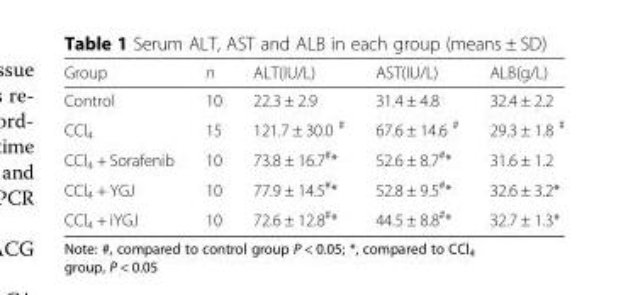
<table><thead><tr><td>Group</td><td>n</td><td>ALT(IU/L)</td><td>AST(IU/L)</td><td>ALB(g/L)</td></tr></thead><tbody><tr><td>Control</td><td>10</td><td>22.3 ± 2.9</td><td>31.4 ± 4.8</td><td>32.4 ± 2.2</td></tr><tr><td>CCl<sub>4</sub></td><td>15</td><td>121.7 ± 30.0 <sup>#</sup></td><td>67.6 ± 14.6 <sup>#</sup></td><td>29.3 ± 1.8 <sup>#</sup></td></tr><tr><td>CCl<sub>4</sub> + Sorafenib</td><td>10</td><td>73.8 ± 16.7<sup>#</sup>*</td><td>52.6 ± 8.7<sup>#</sup>*</td><td>31.6 ± 1.2</td></tr><tr><td>CCl<sub>4</sub> + YGJ</td><td>10</td><td>77.9 ± 14.5<sup>#</sup>*</td><td>52.8 ± 9.5<sup>#</sup>*</td><td>32.6 ± 3.2*</td></tr><tr><td>CCl<sub>4</sub> + iYGJ</td><td>10</td><td>72.6 ± 12.8<sup>#</sup>*</td><td>44.5 ± 8.8<sup>#</sup>*</td><td>32.7 ± 1.3*</td></tr></tbody></table>